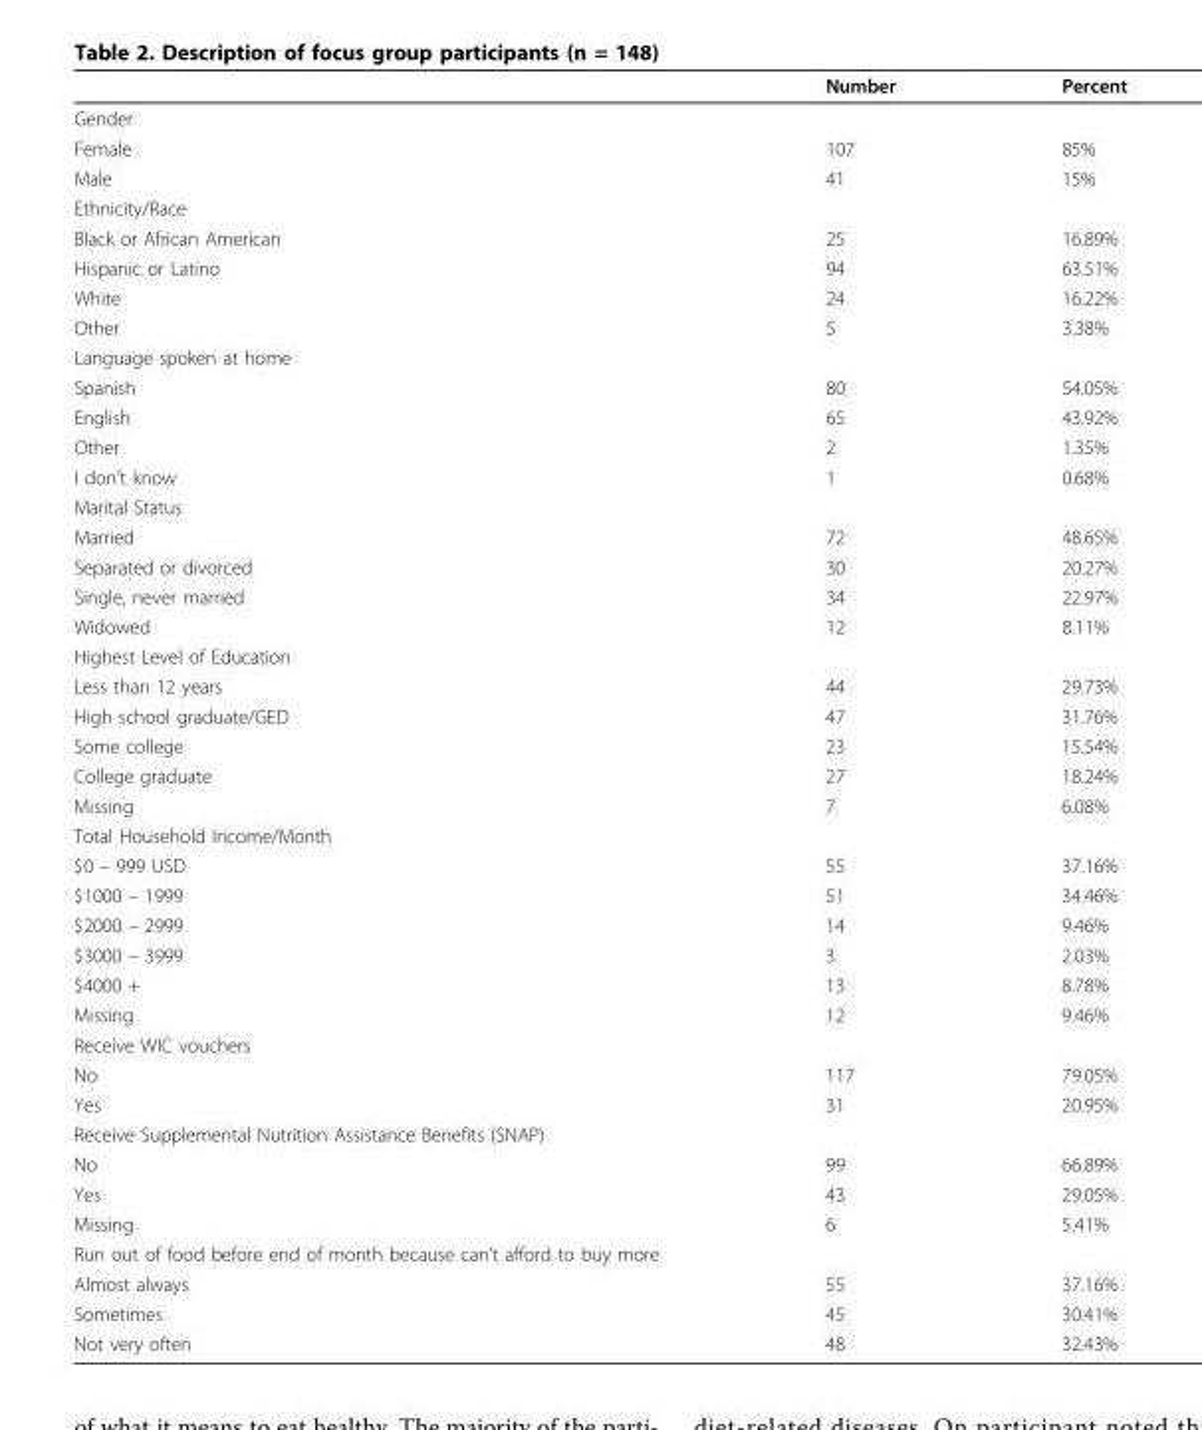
<table><thead><tr><td></td><td>Number</td><td>Percent</td></tr></thead><tbody><tr><td colspan="3">Gender</td></tr><tr><td>Female</td><td>107</td><td>85%</td></tr><tr><td>Male</td><td>41</td><td>15%</td></tr><tr><td colspan="3">Ethnicity/Race</td></tr><tr><td>Black or African American</td><td>25</td><td>16.89%</td></tr><tr><td>Hispanic or Latino</td><td>94</td><td>63.51%</td></tr><tr><td>White</td><td>24</td><td>16.22%</td></tr><tr><td>Other</td><td>5</td><td>3.38%</td></tr><tr><td colspan="3">Language spoken at home</td></tr><tr><td>Spanish</td><td>80</td><td>54.05%</td></tr><tr><td>English</td><td>65</td><td>43.92%</td></tr><tr><td>Other</td><td>2</td><td>1.35%</td></tr><tr><td>I don’t know</td><td>1</td><td>0.68%</td></tr><tr><td colspan="3">Marital Status</td></tr><tr><td>Married</td><td>72</td><td>48.65%</td></tr><tr><td>Separated or divorced</td><td>30</td><td>20.27%</td></tr><tr><td>Single, never married</td><td>34</td><td>22.97%</td></tr><tr><td>Widowed</td><td>12</td><td>8.11%</td></tr><tr><td colspan="3">Highest Level of Education</td></tr><tr><td>Less than 12 years</td><td>44</td><td>29.73%</td></tr><tr><td>High school graduate/GED</td><td>47</td><td>31.76%</td></tr><tr><td>Some college</td><td>23</td><td>15.54%</td></tr><tr><td>College graduate</td><td>27</td><td>18.24%</td></tr><tr><td>Missing</td><td>7</td><td>6.08%</td></tr><tr><td colspan="3">Total Household Income/Month</td></tr><tr><td>$0 – 999 USD</td><td>55</td><td>37.16%</td></tr><tr><td>$1000 – 1999</td><td>51</td><td>34.46%</td></tr><tr><td>$2000 – 2999</td><td>14</td><td>9.46%</td></tr><tr><td>$3000 – 3999</td><td>3</td><td>2.03%</td></tr><tr><td>$4000 +</td><td>13</td><td>8.78%</td></tr><tr><td>Missing</td><td>12</td><td>9.46%</td></tr><tr><td colspan="3">Receive WIC vouchers</td></tr><tr><td>No</td><td>117</td><td>79.05%</td></tr><tr><td>Yes</td><td>31</td><td>20.95%</td></tr><tr><td colspan="3">Receive Supplemental Nutrition Assistance Benefits (SNAP)</td></tr><tr><td>No</td><td>99</td><td>66.89%</td></tr><tr><td>Yes</td><td>43</td><td>29.05%</td></tr><tr><td>Missing</td><td>6</td><td>5.41%</td></tr><tr><td colspan="3">Run out of food before end of month because can’t afford to buy more</td></tr><tr><td>Almost always</td><td>55</td><td>37.16%</td></tr><tr><td>Sometimes</td><td>45</td><td>30.41%</td></tr><tr><td>Not very often</td><td>48</td><td>32.43%</td></tr></tbody></table>